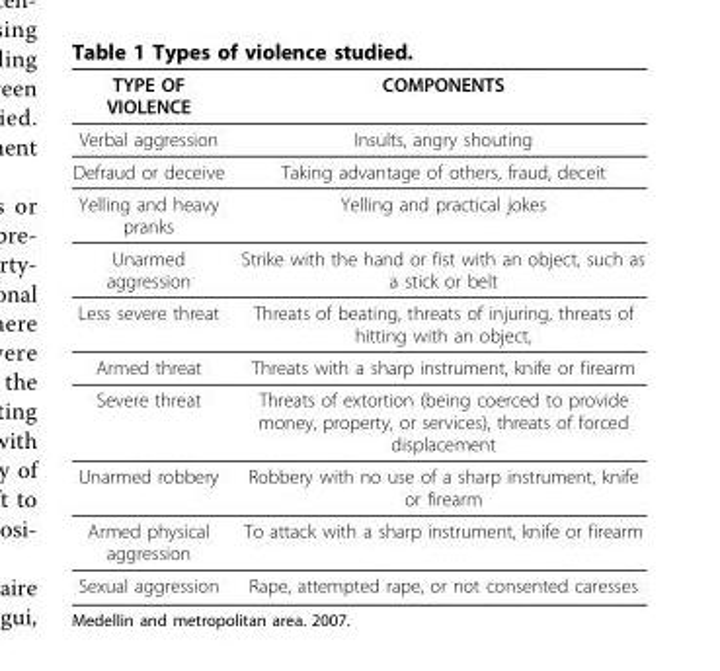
<table><thead><tr><td>TYPE OF VIOLENCE</td><td>COMPONENTS</td></tr></thead><tbody><tr><td>Verbal aggression</td><td>Insults, angry shouting</td></tr><tr><td>Defraud or deceive</td><td>Taking advantage of others, fraud, deceit</td></tr><tr><td>Yelling and heavy pranks</td><td>Yelling and practical jokes</td></tr><tr><td>Unarmed aggression</td><td>Strike with the hand or fist with an object, such as a stick or belt</td></tr><tr><td>Less severe threat</td><td>Threats of beating, threats of injuring, threats of hitting with an object,</td></tr><tr><td>Armed threat</td><td>Threats with a sharp instrument, knife or firearm</td></tr><tr><td>Severe threat</td><td>Threats of extortion (being coerced to provide money, property, or services), threats of forced displacement</td></tr><tr><td>Unarmed robbery</td><td>Robbery with no use of a sharp instrument, knife or firearm</td></tr><tr><td>Armed physical aggression</td><td>To attack with a sharp instrument, knife or firearm</td></tr><tr><td>Sexual aggression</td><td>Rape, attempted rape, or not consented caresses</td></tr></tbody></table>